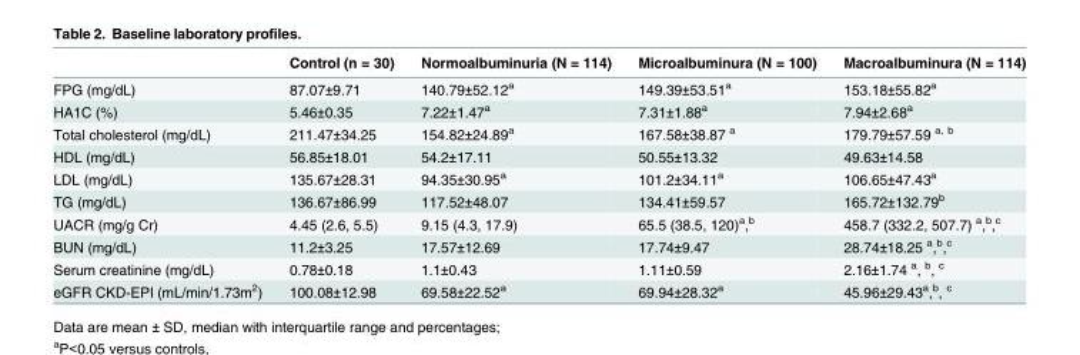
<table><thead><tr><td></td><td>Control (n = 30)</td><td>Normoalbuminuria (N = 114)</td><td>Microalbuminura (N = 100)</td><td>Macroalbuminura (N = 114)</td></tr></thead><tbody><tr><td>FPG (mg/dL)</td><td>87.07±9.71</td><td>140.79±52.12<sup>a</sup></td><td>149.39±53.51<sup>a</sup></td><td>153.18±55.82<sup>a</sup></td></tr><tr><td>HA1C (%)</td><td>5.46±0.35</td><td>7.22±1.47<sup>a</sup></td><td>7.31±1.88<sup>a</sup></td><td>7.94±2.68<sup>a</sup></td></tr><tr><td>Total cholesterol (mg/dL)</td><td>211.47±34.25</td><td>154.82±24.89<sup>a</sup></td><td>167.58±38.87 <sup>a</sup></td><td>179.79±57.59 <sup>a, b</sup></td></tr><tr><td>HDL (mg/dL)</td><td>56.85±18.01</td><td>54.2±17.11</td><td>50.55±13.32</td><td>49.63±14.58</td></tr><tr><td>LDL (mg/dL)</td><td>135.67±28.31</td><td>94.35±30.95<sup>a</sup></td><td>101.2±34.11<sup>a</sup></td><td>106.65±47.43<sup>a</sup></td></tr><tr><td>TG (mg/dL)</td><td>136.67±86.99</td><td>117.52±48.07</td><td>134.41±59.57</td><td>165.72±132.79<sup>b</sup></td></tr><tr><td>UACR (mg/g Cr)</td><td>4.45 (2.6, 5.5)</td><td>9.15 (4.3, 17.9)</td><td>65.5 (38.5, 120)<sup>a</sup>,<sup>b</sup></td><td>458.7 (332.2, 507.7) <sup>a</sup>,<sup>b</sup>,<sup>c</sup></td></tr><tr><td>BUN (mg/dL)</td><td>11.2±3.25</td><td>17.57±12.69</td><td>17.74±9.47</td><td>28.74±18.25 <sup>a</sup>,<sup>b</sup>,<sup>c</sup></td></tr><tr><td>Serum creatinine (mg/dL)</td><td>0.78±0.18</td><td>1.1±0.43</td><td>1.11±0.59</td><td>2.16±1.74 <sup>a</sup>, <sup>b</sup>, <sup>c</sup></td></tr><tr><td>eGFR CKD-EPI (mL/min/1.73m<sup>2</sup>)</td><td>100.08±12.98</td><td>69.58±22.52<sup>a</sup></td><td>69.94±28.32<sup>a</sup></td><td>45.96±29.43<sup>a</sup>,<sup>b</sup>, <sup>c</sup></td></tr></tbody></table>